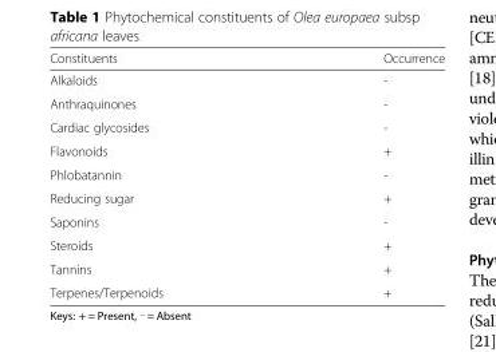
<table><thead><tr><td>Constituents</td><td>Occurrence</td></tr></thead><tbody><tr><td>Alkaloids</td><td>-</td></tr><tr><td>Anthraquinones</td><td>-</td></tr><tr><td>Cardiac glycosides</td><td>-</td></tr><tr><td>Flavonoids</td><td>+</td></tr><tr><td>Phlobatannin</td><td>-</td></tr><tr><td>Reducing sugar</td><td>+</td></tr><tr><td>Saponins</td><td>-</td></tr><tr><td>Steroids</td><td>+</td></tr><tr><td>Tannins</td><td>+</td></tr><tr><td>Terpenes/Terpenoids</td><td>+</td></tr></tbody></table>